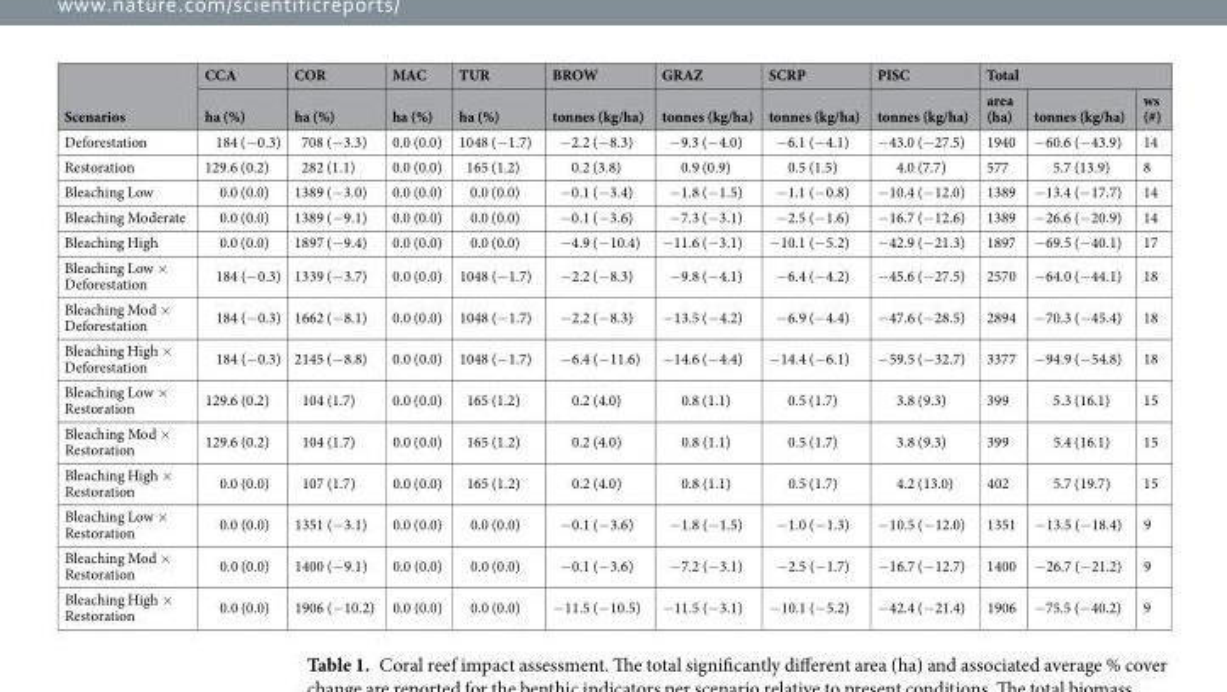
<table><thead><tr><td rowspan="2">Scenarios</td><td rowspan="2">CCA ha (%)</td><td rowspan="2">COR ha (%)</td><td rowspan="2">MAC ha (%)</td><td rowspan="2">TUR ha (%)</td><td rowspan="2">BROW tonnes (kg/ha)</td><td rowspan="2">GRAZ tonnes (kg/ha)</td><td rowspan="2">SCRP tonnes (kg/ha)</td><td rowspan="2">PISC tonnes (kg/ha)</td><td colspan="3">Total</td></tr><tr><td>area (ha)</td><td>tonnes (kg/ha)</td><td>ws (#)</td></tr></thead><tbody><tr><td>Deforestation</td><td>184 (−0.3)</td><td>708 (−3.3)</td><td>0.0 (0.0)</td><td>1048 (−1.7)</td><td>−2.2 (−8.3)</td><td>−9.3 (−4.0)</td><td>−6.1 (−4.1)</td><td>−43.0 (−27.5)</td><td>1940</td><td>−60.6 (−43.9)</td><td>14</td></tr><tr><td>Restoration</td><td>129.6 (0.2)</td><td>282 (1.1)</td><td>0.0 (0.0)</td><td>165 (1.2)</td><td>0.2 (3.8)</td><td>0.9 (0.9)</td><td>0.5 (1.5)</td><td>4.0 (7.7)</td><td>577</td><td>5.7 (13.9)</td><td>8</td></tr><tr><td>Bleaching Low</td><td>0.0 (0.0)</td><td>1389 (−3.0)</td><td>0.0 (0.0)</td><td>0.0 (0.0)</td><td>−0.1 (−3.4)</td><td>−1.8 (−1.5)</td><td>−1.1 (−0.8)</td><td>−10.4 (−12.0)</td><td>1389</td><td>−13.4 (−17.7)</td><td>14</td></tr><tr><td>Bleaching Moderate</td><td>0.0 (0.0)</td><td>1389 (−9.1)</td><td>0.0 (0.0)</td><td>0.0 (0.0)</td><td>−0.1 (−3.6)</td><td>−7.3 (−3.1)</td><td>−2.5 (−1.6)</td><td>−16.7 (−12.6)</td><td>1389</td><td>−26.6 (−20.9)</td><td>14</td></tr><tr><td>Bleaching High</td><td>0.0 (0.0)</td><td>1897 (−9.4)</td><td>0.0 (0.0)</td><td>0.0 (0.0)</td><td>−4.9 (−10.4)</td><td>−11.6 (−3.1)</td><td>−10.1 (−5.2)</td><td>−42.9 (−21.3)</td><td>1897</td><td>−69.5 (−40.1)</td><td>17</td></tr><tr><td>Bleaching Low × Deforestation</td><td>184 (−0.3)</td><td>1339 (−3.7)</td><td>0.0 (0.0)</td><td>1048 (−1.7)</td><td>−2.2 (−8.3)</td><td>−9.8 (−4.1)</td><td>−6.4 (−4.2)</td><td>−45.6 (−27.5)</td><td>2570</td><td>−64.0 (−44.1)</td><td>18</td></tr><tr><td>Bleaching Mod × Deforestation</td><td>184 (−0.3)</td><td>1662 (−8.1)</td><td>0.0 (0.0)</td><td>1048 (−1.7)</td><td>−2.2 (−8.3)</td><td>−13.5 (−4.2)</td><td>−6.9 (−4.4)</td><td>−47.6 (−28.5)</td><td>2894</td><td>−70.3 (−45.4)</td><td>18</td></tr><tr><td>Bleaching High × Deforestation</td><td>184 (−0.3)</td><td>2145 (−8.8)</td><td>0.0 (0.0)</td><td>1048 (−1.7)</td><td>−6.4 (−11.6)</td><td>−14.6 (−4.4)</td><td>−14.4 (−6.1)</td><td>−59.5 (−32.7)</td><td>3377</td><td>−94.9 (−54.8)</td><td>18</td></tr><tr><td>Bleaching Low × Restoration</td><td>129.6 (0.2)</td><td>104 (1.7)</td><td>0.0 (0.0)</td><td>165 (1.2)</td><td>0.2 (4.0)</td><td>0.8 (1.1)</td><td>0.5 (1.7)</td><td>3.8 (9.3)</td><td>399</td><td>5.3 (16.1)</td><td>15</td></tr><tr><td>Bleaching Mod × Restoration</td><td>129.6 (0.2)</td><td>104 (1.7)</td><td>0.0 (0.0)</td><td>165 (1.2)</td><td>0.2 (4.0)</td><td>0.8 (1.1)</td><td>0.5 (1.7)</td><td>3.8 (9.3)</td><td>399</td><td>5.4 (16.1)</td><td>15</td></tr><tr><td>Bleaching High × Restoration</td><td>0.0 (0.0)</td><td>107 (1.7)</td><td>0.0 (0.0)</td><td>165 (1.2)</td><td>0.2 (4.0)</td><td>0.8 (1.1)</td><td>0.5 (1.7)</td><td>4.2 (13.0)</td><td>402</td><td>5.7 (19.7)</td><td>15</td></tr><tr><td>Bleaching Low × Restoration</td><td>0.0 (0.0)</td><td>1351 (−3.1)</td><td>0.0 (0.0)</td><td>0.0 (0.0)</td><td>−0.1 (−3.6)</td><td>−1.8 (−1.5)</td><td>−1.0 (−1.3)</td><td>−10.5 (−12.0)</td><td>1351</td><td>−13.5 (−18.4)</td><td>9</td></tr><tr><td>Bleaching Mod × Restoration</td><td>0.0 (0.0)</td><td>1400 (−9.1)</td><td>0.0 (0.0)</td><td>0.0 (0.0)</td><td>−0.1 (−3.6)</td><td>−7.2 (−3.1)</td><td>−2.5 (−1.7)</td><td>−16.7 (−12.7)</td><td>1400</td><td>−26.7 (−21.2)</td><td>9</td></tr><tr><td>Bleaching High × Restoration</td><td>0.0 (0.0)</td><td>1906 (−10.2)</td><td>0.0 (0.0)</td><td>0.0 (0.0)</td><td>−11.5 (−10.5)</td><td>−11.5 (−3.1)</td><td>−10.1 (−5.2)</td><td>−42.4 (−21.4)</td><td>1906</td><td>−75.5 (−40.2)</td><td>9</td></tr></tbody></table>